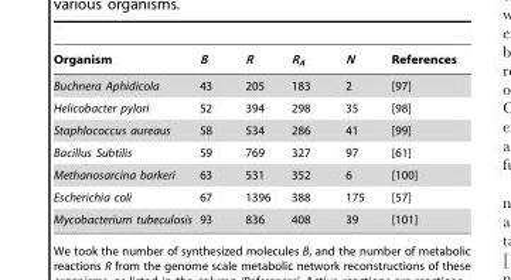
<table><thead><tr><td>Organism</td><td>B</td><td>R</td><td>R<sub>A</sub></td><td>N</td><td>References</td></tr></thead><tbody><tr><td>Buchnera Aphidicola</td><td>43</td><td>205</td><td>183</td><td>2</td><td>[97]</td></tr><tr><td>Helicobacter pylori</td><td>52</td><td>394</td><td>298</td><td>35</td><td>[98]</td></tr><tr><td>Staphlococcus aureaus</td><td>58</td><td>534</td><td>286</td><td>41</td><td>[99]</td></tr><tr><td>Bacillus Subtilis</td><td>59</td><td>769</td><td>327</td><td>97</td><td>[61]</td></tr><tr><td>Methanosarcina barkeri</td><td>63</td><td>531</td><td>352</td><td>6</td><td>[100]</td></tr><tr><td>Escherichia coli</td><td>67</td><td>1396</td><td>388</td><td>175</td><td>[57]</td></tr><tr><td>Mycobacterium tubeculosis</td><td>93</td><td>836</td><td>408</td><td>39</td><td>[101]</td></tr></tbody></table>